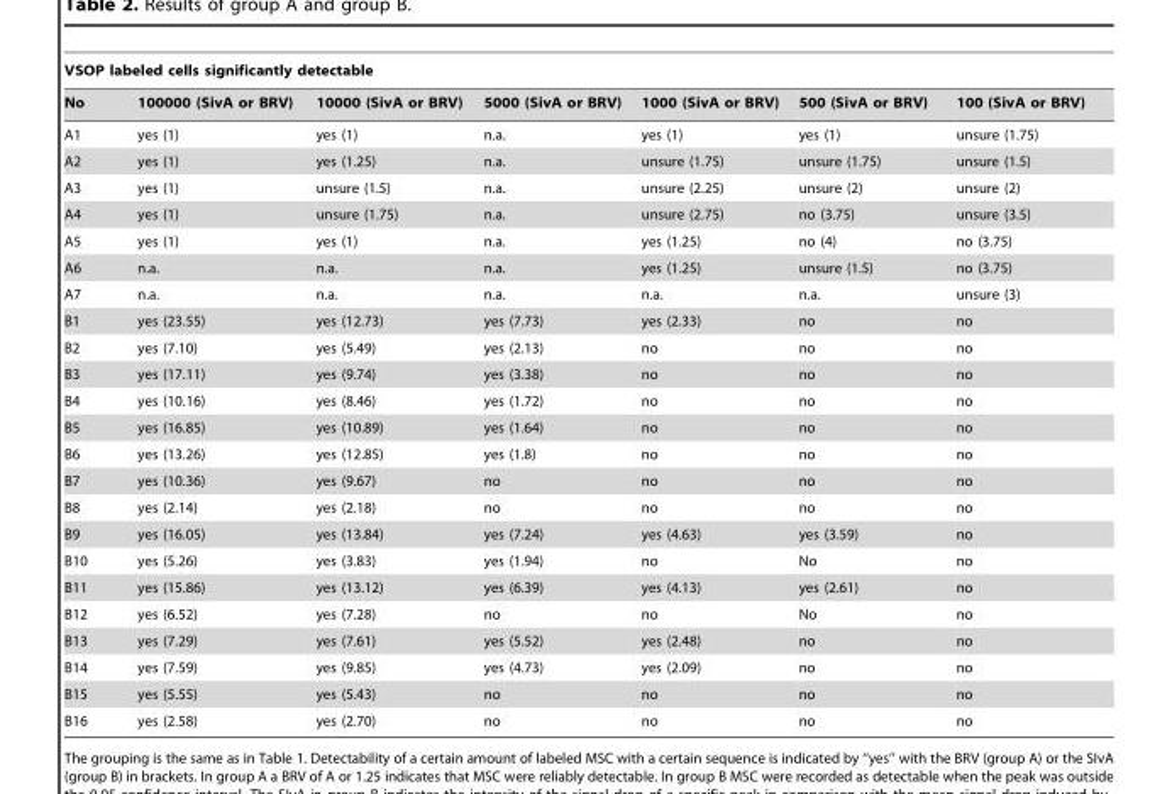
<table><thead><tr><td colspan="7">VSOP labeled cells significantly detectable</td></tr><tr><td>No</td><td>100000 (SivA or BRV)</td><td>10000 (SivA or BRV)</td><td>5000 (SivA or BRV)</td><td>1000 (SivA or BRV)</td><td>500 (SivA or BRV)</td><td>100 (SivA or BRV)</td></tr></thead><tbody><tr><td>A1</td><td>yes (1)</td><td>yes (1)</td><td>n.a.</td><td>yes (1)</td><td>yes (1)</td><td>unsure (1.75)</td></tr><tr><td>A2</td><td>yes (1)</td><td>yes (1.25)</td><td>n.a.</td><td>unsure (1.75)</td><td>unsure (1.75)</td><td>unsure (1.5)</td></tr><tr><td>A3</td><td>yes (1)</td><td>unsure (1.5)</td><td>n.a.</td><td>unsure (2.25)</td><td>unsure (2)</td><td>unsure (2)</td></tr><tr><td>A4</td><td>yes (1)</td><td>unsure (1.75)</td><td>n.a.</td><td>unsure (2.75)</td><td>no (3.75)</td><td>unsure (3.5)</td></tr><tr><td>A5</td><td>yes (1)</td><td>yes (1)</td><td>n.a.</td><td>yes (1.25)</td><td>no (4)</td><td>no (3.75)</td></tr><tr><td>A6</td><td>n.a.</td><td>n.a.</td><td>n.a.</td><td>yes (1.25)</td><td>unsure (1.5)</td><td>no (3.75)</td></tr><tr><td>A7</td><td>n.a.</td><td>n.a.</td><td>n.a.</td><td>n.a.</td><td>n.a.</td><td>unsure (3)</td></tr><tr><td>B1</td><td>yes (23.55)</td><td>yes (12.73)</td><td>yes (7.73)</td><td>yes (2.33)</td><td>no</td><td>no</td></tr><tr><td>B2</td><td>yes (7.10)</td><td>yes (5.49)</td><td>yes (2.13)</td><td>no</td><td>no</td><td>no</td></tr><tr><td>B3</td><td>yes (17.11)</td><td>yes (9.74)</td><td>yes (3.38)</td><td>no</td><td>no</td><td>no</td></tr><tr><td>B4</td><td>yes (10.16)</td><td>yes (8.46)</td><td>yes (1.72)</td><td>no</td><td>no</td><td>no</td></tr><tr><td>B5</td><td>yes (16.85)</td><td>yes (10.89)</td><td>yes (1.64)</td><td>no</td><td>no</td><td>no</td></tr><tr><td>B6</td><td>yes (13.26)</td><td>yes (12.85)</td><td>yes (1.8)</td><td>no</td><td>no</td><td>no</td></tr><tr><td>B7</td><td>yes (10.36)</td><td>yes (9.67)</td><td>no</td><td>no</td><td>no</td><td>no</td></tr><tr><td>B8</td><td>yes (2.14)</td><td>yes (2.18)</td><td>no</td><td>no</td><td>no</td><td>no</td></tr><tr><td>B9</td><td>yes (16.05)</td><td>yes (13.84)</td><td>yes (7.24)</td><td>yes (4.63)</td><td>yes (3.59)</td><td>no</td></tr><tr><td>B10</td><td>yes (5.26)</td><td>yes (3.83)</td><td>yes (1.94)</td><td>no</td><td>No</td><td>no</td></tr><tr><td>B11</td><td>yes (15.86)</td><td>yes (13.12)</td><td>yes (6.39)</td><td>yes (4.13)</td><td>yes (2.61)</td><td>no</td></tr><tr><td>B12</td><td>yes (6.52)</td><td>yes (7.28)</td><td>no</td><td>no</td><td>No</td><td>no</td></tr><tr><td>B13</td><td>yes (7.29)</td><td>yes (7.61)</td><td>yes (5.52)</td><td>yes (2.48)</td><td>no</td><td>no</td></tr><tr><td>B14</td><td>yes (7.59)</td><td>yes (9.85)</td><td>yes (4.73)</td><td>yes (2.09)</td><td>no</td><td>no</td></tr><tr><td>B15</td><td>yes (5.55)</td><td>yes (5.43)</td><td>no</td><td>no</td><td>no</td><td>no</td></tr><tr><td>B16</td><td>yes (2.58)</td><td>yes (2.70)</td><td>no</td><td>no</td><td>no</td><td>no</td></tr></tbody></table>